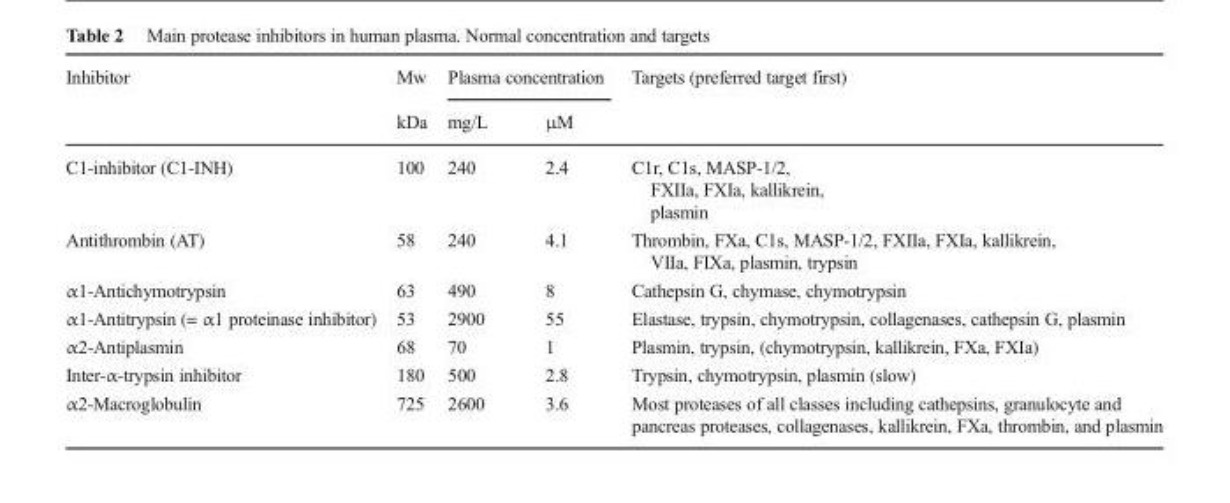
<table><thead><tr><td rowspan="2">Inhibitor</td><td rowspan="2">Mw kDa</td><td colspan="2">Plasma concentration</td><td rowspan="2">Targets (preferred target first)</td></tr><tr><td>mg/L</td><td>μM</td></tr></thead><tbody><tr><td>C1-inhibitor (C1-INH)</td><td>100</td><td>240</td><td>2.4</td><td>C1r, C1s, MASP-1/2, FXIIa, FXIa, kallikrein, plasmin</td></tr><tr><td>Antithrombin (AT)</td><td>58</td><td>240</td><td>4.1</td><td>Thrombin, FXa, C1s, MASP-1/2, FXIIa, FXIa, kallikrein, VIIa, FIXa, plasmin, trypsin</td></tr><tr><td>α1-Antichymotrypsin</td><td>63</td><td>490</td><td>8</td><td>Cathepsin G, chymase, chymotrypsin</td></tr><tr><td>α1-Antitrypsin (= α1 proteinase inhibitor)</td><td>53</td><td>2900</td><td>55</td><td>Elastase, trypsin, chymotrypsin, collagenases, cathepsin G, plasmin</td></tr><tr><td>α2-Antiplasmin</td><td>68</td><td>70</td><td>1</td><td>Plasmin, trypsin, (chymotrypsin, kallikrein, FXa, FXIa)</td></tr><tr><td>Inter-α-trypsin inhibitor</td><td>180</td><td>500</td><td>2.8</td><td>Trypsin, chymotrypsin, plasmin (slow)</td></tr><tr><td>α2-Macroglobulin</td><td>725</td><td>2600</td><td>3.6</td><td>Most proteases of all classes including cathepsins, granulocyte and pancreas proteases, collagenases, kallikrein, FXa, thrombin, and plasmin</td></tr></tbody></table>